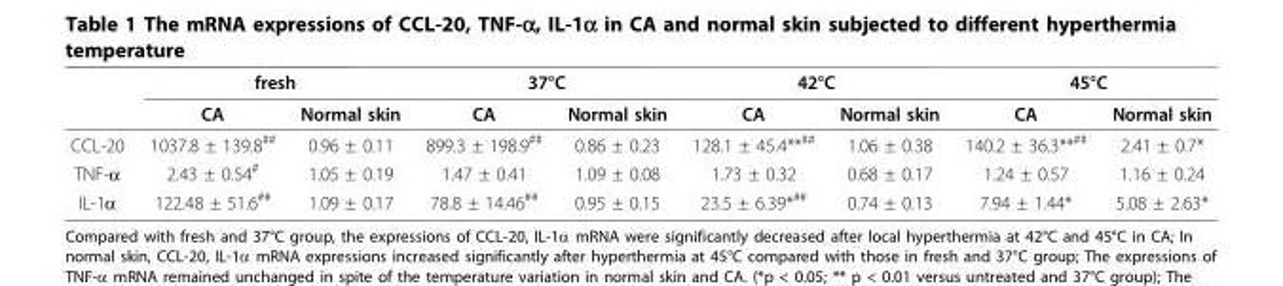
<table><thead><tr><td rowspan="2"></td><td colspan="2">fresh</td><td colspan="2">37°C</td><td colspan="2">42°C</td><td colspan="2">45°C</td></tr><tr><td>CA</td><td>Normal skin</td><td>CA</td><td>Normal skin</td><td>CA</td><td>Normal skin</td><td>CA</td><td>Normal skin</td></tr></thead><tbody><tr><td>CCL-20</td><td>1037.8 ± 139.8<sup>##</sup></td><td>0.96 ± 0.11</td><td>899.3 ± 198.9<sup>##</sup></td><td>0.86 ± 0.23</td><td>128.1 ± 45.4**<sup>##</sup></td><td>1.06 ± 0.38</td><td>140.2 ± 36.3**<sup>##</sup></td><td>2.41 ± 0.7*</td></tr><tr><td>TNF-α</td><td>2.43 ± 0.54<sup>#</sup></td><td>1.05 ± 0.19</td><td>1.47 ± 0.41</td><td>1.09 ± 0.08</td><td>1.73 ± 0.32</td><td>0.68 ± 0.17</td><td>1.24 ± 0.57</td><td>1.16 ± 0.24</td></tr><tr><td>IL-1α</td><td>122.48 ± 51.6<sup>##</sup></td><td>1.09 ± 0.17</td><td>78.8 ± 14.46<sup>##</sup></td><td>0.95 ± 0.15</td><td>23.5 ± 6.39*<sup>##</sup></td><td>0.74 ± 0.13</td><td>7.94 ± 1.44*</td><td>5.08 ± 2.63*</td></tr></tbody></table>